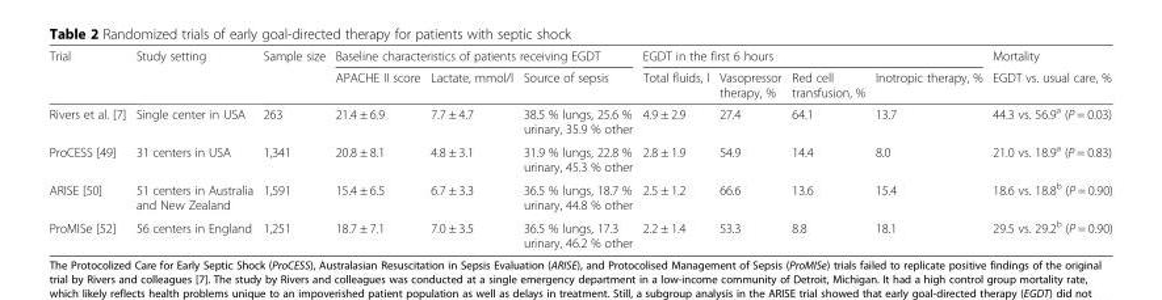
<table><thead><tr><td rowspan="2">Trial</td><td rowspan="2">Study setting</td><td rowspan="2">Sample size</td><td colspan="3">Baseline characteristics of patients receiving EGDT</td><td colspan="4">EGDT in the first 6 hours</td><td rowspan="2">Mortality EGDT vs. usual care, %</td></tr><tr><td>APACHE II score</td><td>Lactate, mmol/l</td><td>Source of sepsis</td><td>Total fluids, l</td><td>Vasopressor therapy, %</td><td>Red cell transfusion, %</td><td>Inotropic therapy, %</td></tr></thead><tbody><tr><td>Rivers et al. [7]</td><td>Single center in USA</td><td>263</td><td>21.4 ± 6.9</td><td>7.7 ± 4.7</td><td>38.5 % lungs, 25.6 % urinary, 35.9 % other</td><td>4.9 ± 2.9</td><td>27.4</td><td>64.1</td><td>13.7</td><td>44.3 vs. 56.9<sup>a</sup> (P = 0.03)</td></tr><tr><td>ProCESS [49]</td><td>31 centers in USA</td><td>1,341</td><td>20.8 ± 8.1</td><td>4.8 ± 3.1</td><td>31.9 % lungs, 22.8 % urinary, 45.3 % other</td><td>2.8 ± 1.9</td><td>54.9</td><td>14.4</td><td>8.0</td><td>21.0 vs. 18.9<sup>a</sup> (P = 0.83)</td></tr><tr><td>ARISE [50]</td><td>51 centers in Australia and New Zealand</td><td>1,591</td><td>15.4 ± 6.5</td><td>6.7 ± 3.3</td><td>36.5 % lungs, 18.7 % urinary, 44.8 % other</td><td>2.5 ± 1.2</td><td>66.6</td><td>13.6</td><td>15.4</td><td>18.6 vs. 18.8<sup>b</sup> (P = 0.90)</td></tr><tr><td>ProMISe [52]</td><td>56 centers in England</td><td>1,251</td><td>18.7 ± 7.1</td><td>7.0 ± 3.5</td><td>36.5 % lungs, 17.3 urinary, 46.2 % other</td><td>2.2 ± 1.4</td><td>53.3</td><td>8.8</td><td>18.1</td><td>29.5 vs. 29.2<sup>b</sup> (P = 0.90)</td></tr></tbody></table>